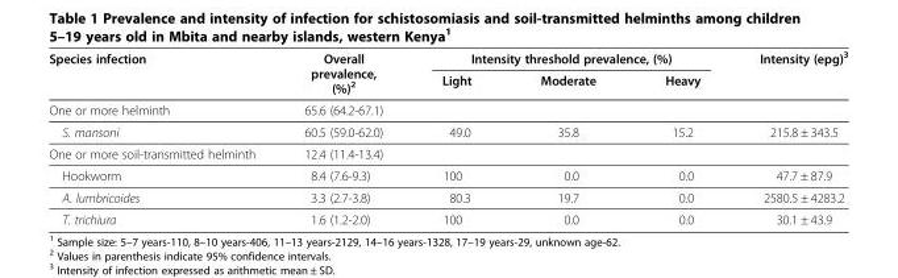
<table><thead><tr><td rowspan="2">Species infection</td><td rowspan="2">Overall prevalence, (%)<sup>2</sup></td><td colspan="3">Intensity threshold prevalence, (%)</td><td rowspan="2">Intensity (epg)<sup>3</sup></td></tr><tr><td>Light</td><td>Moderate</td><td>Heavy</td></tr></thead><tbody><tr><td>One or more helminth</td><td>65.6 (64.2-67.1)</td><td></td><td></td><td></td><td></td></tr><tr><td>S. mansoni</td><td>60.5 (59.0-62.0)</td><td>49.0</td><td>35.8</td><td>15.2</td><td>215.8 ± 343.5</td></tr><tr><td>One or more soil-transmitted helminth</td><td>12.4 (11.4-13.4)</td><td></td><td></td><td></td><td></td></tr><tr><td>Hookworm</td><td>8.4 (7.6-9.3)</td><td>100</td><td>0.0</td><td>0.0</td><td>47.7 ± 87.9</td></tr><tr><td>A. lumbricoides</td><td>3.3 (2.7-3.8)</td><td>80.3</td><td>19.7</td><td>0.0</td><td>2580.5 ± 4283.2</td></tr><tr><td>T. trichiura</td><td>1.6 (1.2-2.0)</td><td>100</td><td>0.0</td><td>0.0</td><td>30.1 ± 43.9</td></tr></tbody></table>